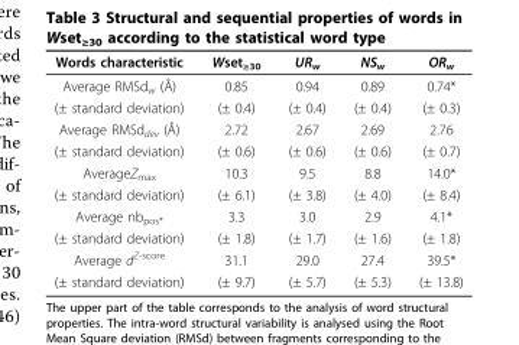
<table><thead><tr><td>Words characteristic</td><td>Wset<sub>≥30</sub></td><td>UR<sub>w</sub></td><td>NS<sub>w</sub></td><td>OR<sub>w</sub></td></tr></thead><tbody><tr><td>Average RMSd<sub>w</sub> (Å)</td><td>0.85</td><td>0.94</td><td>0.89</td><td>0.74*</td></tr><tr><td>(± standard deviation)</td><td>(± 0.4)</td><td>(± 0.4)</td><td>(± 0.4)</td><td>(± 0.3)</td></tr><tr><td>Average RMSd<sub>dev</sub> (Å)</td><td>2.72</td><td>2.67</td><td>2.69</td><td>2.76</td></tr><tr><td>(± standard deviation)</td><td>(± 0.6)</td><td>(± 0.6)</td><td>(± 0.6)</td><td>(± 0.7)</td></tr><tr><td>AverageZ<sub>max</sub></td><td>10.3</td><td>9.5</td><td>8.8</td><td>14.0*</td></tr><tr><td>(± standard deviation)</td><td>(± 6.1)</td><td>(± 3.8)</td><td>(± 4.0)</td><td>(± 8.4)</td></tr><tr><td>Average nb<sub>pos*</sub></td><td>3.3</td><td>3.0</td><td>2.9</td><td>4.1*</td></tr><tr><td>(± standard deviation)</td><td>(± 1.8)</td><td>(± 1.7)</td><td>(± 1.6)</td><td>(± 1.8)</td></tr><tr><td>Average d<sup>Z-score</sup></td><td>31.1</td><td>29.0</td><td>27.4</td><td>39.5*</td></tr><tr><td>(± standard deviation)</td><td>(± 9.7)</td><td>(± 5.7)</td><td>(± 5.3)</td><td>(± 13.8)</td></tr></tbody></table>